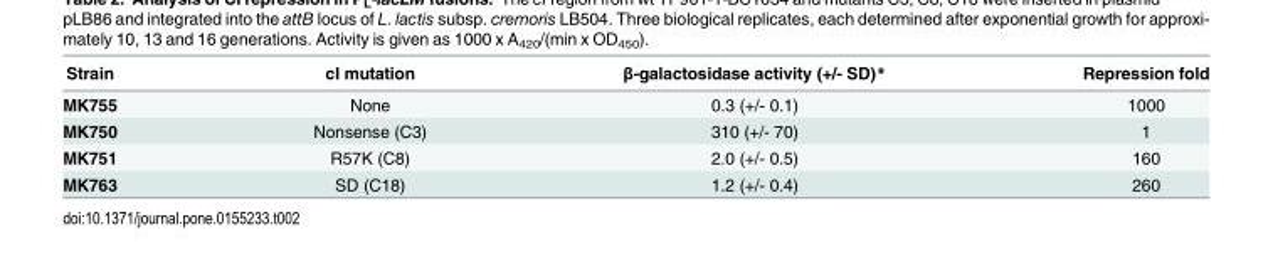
<table><thead><tr><td>Strain</td><td>cI mutation</td><td>β-galactosidase activity (+/- SD)*</td><td>Repression fold</td></tr></thead><tbody><tr><td>MK755</td><td>None</td><td>0.3 (+/- 0.1)</td><td>1000</td></tr><tr><td>MK750</td><td>Nonsense (C3)</td><td>310 (+/- 70)</td><td>1</td></tr><tr><td>MK751</td><td>R57K (C8)</td><td>2.0 (+/- 0.5)</td><td>160</td></tr><tr><td>MK763</td><td>SD (C18)</td><td>1.2 (+/- 0.4)</td><td>260</td></tr></tbody></table>